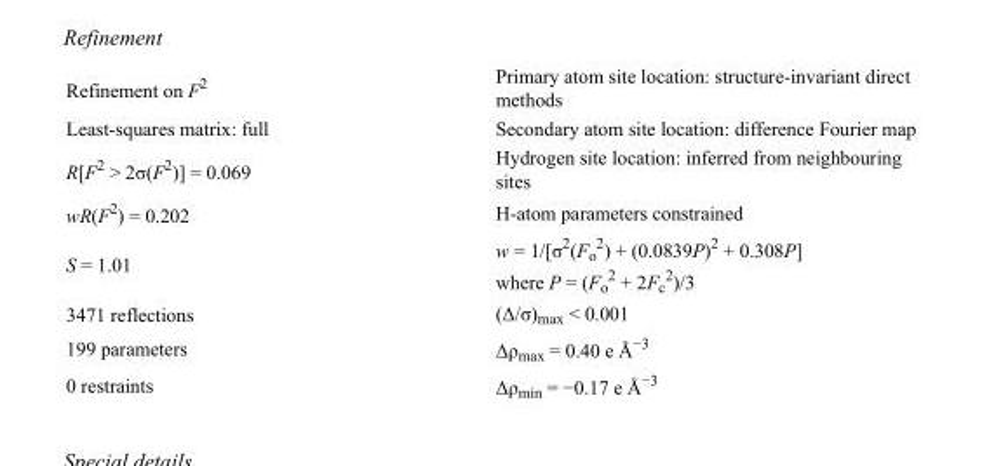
<table><tbody><tr><td>Refinement on F<sup>2</sup></td><td>Primary atom site location: structure-invariant direct methods</td></tr><tr><td>Least-squares matrix: full</td><td>Secondary atom site location: difference Fourier map</td></tr><tr><td>R[F<sup>2</sup> &gt; 2σ(F<sup>2</sup>)] = 0.069</td><td>Hydrogen site location: inferred from neighbouring sites</td></tr><tr><td>wR(F<sup>2</sup>) = 0.202</td><td>H-atom parameters constrained</td></tr><tr><td>S = 1.01</td><td>w = 1/[σ<sup>2</sup>(F<sub>o</sub> <sup>2</sup>) + (0.0839P)<sup>2</sup> + 0.308P] where P = (F<sub>o</sub> <sup>2</sup> + 2F<sub>c</sub> <sup>2</sup>)/3</td></tr><tr><td>3471 reflections</td><td>(Δ/σ)<sub>max</sub> &lt; 0.001</td></tr><tr><td>199 parameters</td><td>Δρ<sub>max</sub> = 0.40 e Å<sup>−3</sup></td></tr><tr><td>0 restraints</td><td>Δρ<sub>min</sub> = −0.17 e Å<sup>−3</sup></td></tr></tbody></table>